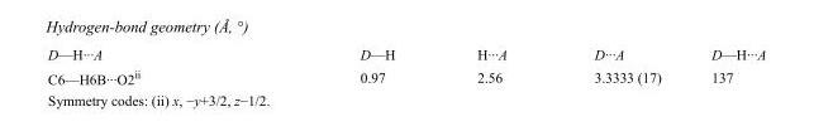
<table><tbody><tr><td>D—H···A</td><td>D—H</td><td>H···A</td><td>D···A</td><td>D—H···A</td></tr><tr><td>C6—H6B···O2<sup>ii</sup></td><td>0.97</td><td>2.56</td><td>3.3333 (17)</td><td>137</td></tr></tbody></table>